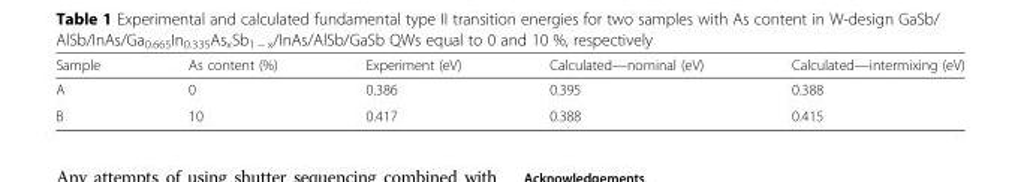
<table><thead><tr><td>Sample</td><td>As content (%)</td><td>Experiment (eV)</td><td>Calculated—nominal (eV)</td><td>Calculated—intermixing (eV)</td></tr></thead><tbody><tr><td>A</td><td>0</td><td>0.386</td><td>0.395</td><td>0.388</td></tr><tr><td>B</td><td>10</td><td>0.417</td><td>0.388</td><td>0.415</td></tr></tbody></table>